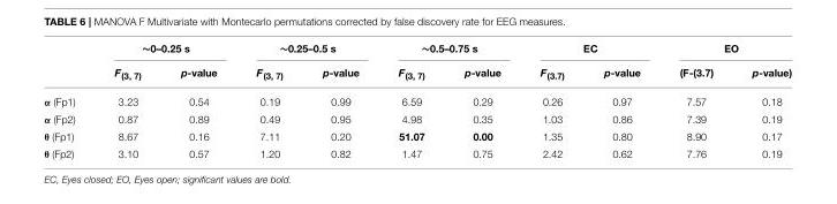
<table><thead><tr><td rowspan="2"></td><td colspan="2">∼0–0.25 s</td><td colspan="2">∼0.25–0.5 s</td><td colspan="2">∼0.5–0.75 s</td><td colspan="2">EC</td><td colspan="2">EO</td></tr><tr><td>F<sub>(3, 7)</sub></td><td>p-value</td><td>F<sub>(3, 7)</sub></td><td>p-value</td><td>F<sub>(3, 7)</sub></td><td>p-value</td><td>F<sub>(3.7)</sub></td><td>p-value</td><td>(F-(3.7)</td><td>p-value)</td></tr></thead><tbody><tr><td>α (Fp1)</td><td>3.23</td><td>0.54</td><td>0.19</td><td>0.99</td><td>6.59</td><td>0.29</td><td>0.26</td><td>0.97</td><td>7.57</td><td>0.18</td></tr><tr><td>α (Fp2)</td><td>0.87</td><td>0.89</td><td>0.49</td><td>0.95</td><td>4.98</td><td>0.35</td><td>1.03</td><td>0.86</td><td>7.39</td><td>0.19</td></tr><tr><td>θ (Fp1)</td><td>8.67</td><td>0.16</td><td>7.11</td><td>0.20</td><td>51.07</td><td>0.00</td><td>1.35</td><td>0.80</td><td>8.90</td><td>0.17</td></tr><tr><td>θ (Fp2)</td><td>3.10</td><td>0.57</td><td>1.20</td><td>0.82</td><td>1.47</td><td>0.75</td><td>2.42</td><td>0.62</td><td>7.76</td><td>0.19</td></tr></tbody></table>